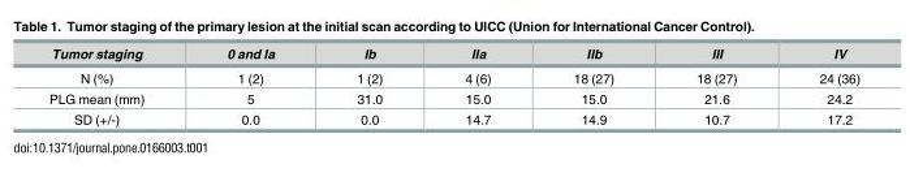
<table><thead><tr><td>Tumor staging</td><td>0 and Ia</td><td>Ib</td><td>IIa</td><td>IIb</td><td>III</td><td>IV</td></tr></thead><tbody><tr><td>N (%)</td><td>1 (2)</td><td>1 (2)</td><td>4 (6)</td><td>18 (27)</td><td>18 (27)</td><td>24 (36)</td></tr><tr><td>PLG mean (mm)</td><td>5</td><td>31.0</td><td>15.0</td><td>15.0</td><td>21.6</td><td>24.2</td></tr><tr><td>SD (+/-)</td><td>0.0</td><td>0.0</td><td>14.7</td><td>14.9</td><td>10.7</td><td>17.2</td></tr></tbody></table>